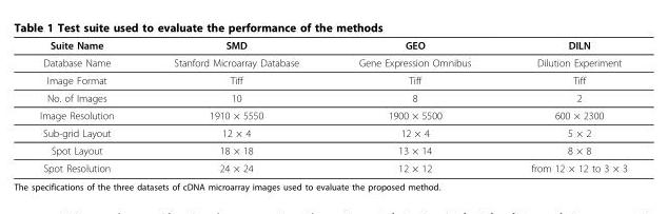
<table><thead><tr><td>Suite Name</td><td>SMD</td><td>GEO</td><td>DILN</td></tr></thead><tbody><tr><td>Database Name</td><td>Stanford Microarray Database</td><td>Gene Expression Omnibus</td><td>Dilution Experiment</td></tr><tr><td>Image Format</td><td>Tiff</td><td>Tiff</td><td>Tiff</td></tr><tr><td>No. of Images</td><td>10</td><td>8</td><td>2</td></tr><tr><td>Image Resolution</td><td>1910 × 5550</td><td>1900 × 5500</td><td>600 × 2300</td></tr><tr><td>Sub-grid Layout</td><td>12 × 4</td><td>12 × 4</td><td>5 × 2</td></tr><tr><td>Spot Layout</td><td>18 × 18</td><td>13 × 14</td><td>8 × 8</td></tr><tr><td>Spot Resolution</td><td>24 × 24</td><td>12 × 12</td><td>from 12 × 12 to 3 × 3</td></tr></tbody></table>